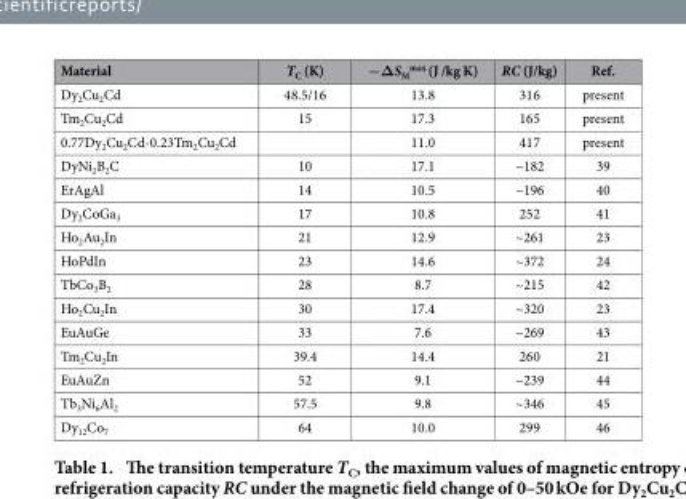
<table><thead><tr><td>Material</td><td>T<sub>C</sub> (K)</td><td>−ΔS<sub>M</sub> <sup>max</sup> (J /kg K)</td><td>RC (J/kg)</td><td>Ref.</td></tr></thead><tbody><tr><td>Dy<sub>2</sub>Cu<sub>2</sub>Cd</td><td>48.5/16</td><td>13.8</td><td>316</td><td>present</td></tr><tr><td>Tm<sub>2</sub>Cu<sub>2</sub>Cd</td><td>15</td><td>17.3</td><td>165</td><td>present</td></tr><tr><td>0.77Dy<sub>2</sub>Cu<sub>2</sub>Cd-0.23Tm<sub>2</sub>Cu<sub>2</sub>Cd</td><td></td><td>11.0</td><td>417</td><td>present</td></tr><tr><td>DyNi<sub>2</sub>B<sub>2</sub>C</td><td>10</td><td>17.1</td><td>~182</td><td>39</td></tr><tr><td>ErAgAl</td><td>14</td><td>10.5</td><td>~196</td><td>40</td></tr><tr><td>Dy<sub>2</sub>CoGa<sub>3</sub></td><td>17</td><td>10.8</td><td>252</td><td>41</td></tr><tr><td>Ho<sub>2</sub>Au<sub>2</sub>In</td><td>21</td><td>12.9</td><td>~261</td><td>23</td></tr><tr><td>HoPdIn</td><td>23</td><td>14.6</td><td>~372</td><td>24</td></tr><tr><td>TbCo<sub>3</sub>B<sub>2</sub></td><td>28</td><td>8.7</td><td>~215</td><td>42</td></tr><tr><td>Ho<sub>2</sub>Cu<sub>2</sub>In</td><td>30</td><td>17.4</td><td>~320</td><td>23</td></tr><tr><td>EuAuGe</td><td>33</td><td>7.6</td><td>~269</td><td>43</td></tr><tr><td>Tm<sub>2</sub>Cu<sub>2</sub>In</td><td>39.4</td><td>14.4</td><td>260</td><td>21</td></tr><tr><td>EuAuZn</td><td>52</td><td>9.1</td><td>~239</td><td>44</td></tr><tr><td>Tb<sub>3</sub>Ni<sub>6</sub>Al<sub>2</sub></td><td>57.5</td><td>9.8</td><td>~346</td><td>45</td></tr><tr><td>Dy<sub>12</sub>Co<sub>7</sub></td><td>64</td><td>10.0</td><td>299</td><td>46</td></tr></tbody></table>